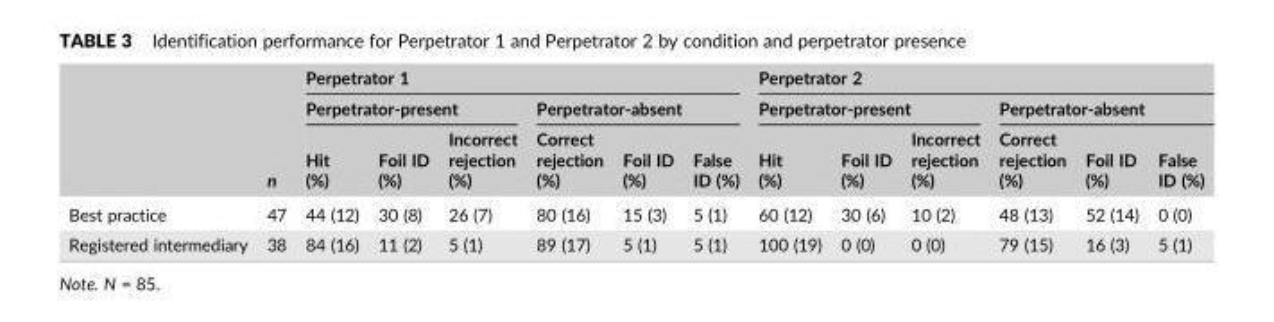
<table><thead><tr><td rowspan="3"></td><td rowspan="3">n</td><td colspan="6">Perpetrator 1</td><td colspan="6">Perpetrator 2</td></tr><tr><td colspan="3">Perpetrator‐present</td><td colspan="3">Perpetrator‐absent</td><td colspan="3">Perpetrator‐present</td><td colspan="3">Perpetrator‐absent</td></tr><tr><td>Hit (%)</td><td>Foil ID (%)</td><td>Incorrect rejection (%)</td><td>Correct rejection (%)</td><td>Foil ID (%)</td><td>False ID (%)</td><td>Hit (%)</td><td>Foil ID (%)</td><td>Incorrect rejection (%)</td><td>Correct rejection (%)</td><td>Foil ID (%)</td><td>False ID (%)</td></tr></thead><tbody><tr><td>Best practice</td><td>47</td><td>44 (12)</td><td>30 (8)</td><td>26 (7)</td><td>80 (16)</td><td>15 (3)</td><td>5 (1)</td><td>60 (12)</td><td>30 (6)</td><td>10 (2)</td><td>48 (13)</td><td>52 (14)</td><td>0 (0)</td></tr><tr><td>Registered intermediary</td><td>38</td><td>84 (16)</td><td>11 (2)</td><td>5 (1)</td><td>89 (17)</td><td>5 (1)</td><td>5 (1)</td><td>100 (19)</td><td>0 (0)</td><td>0 (0)</td><td>79 (15)</td><td>16 (3)</td><td>5 (1)</td></tr></tbody></table>